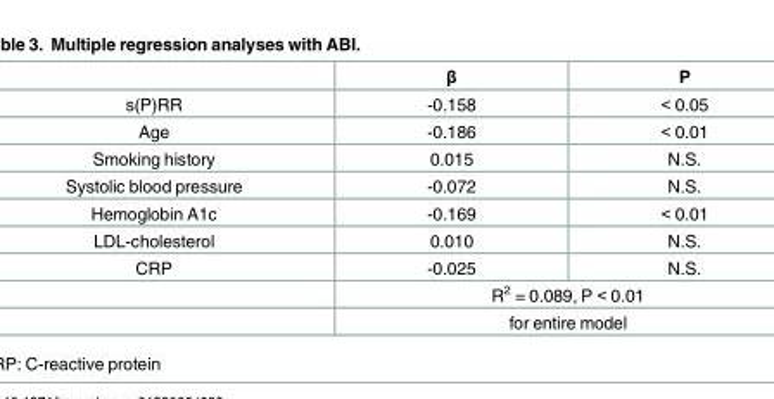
<table><thead><tr><td></td><td>β</td><td>P</td></tr></thead><tbody><tr><td>s(P)RR</td><td>-0.158</td><td>&lt; 0.05</td></tr><tr><td>Age</td><td>-0.186</td><td>&lt; 0.01</td></tr><tr><td>Smoking history</td><td>0.015</td><td>N.S.</td></tr><tr><td>Systolic blood pressure</td><td>-0.072</td><td>N.S.</td></tr><tr><td>Hemoglobin A1c</td><td>-0.169</td><td>&lt; 0.01</td></tr><tr><td>LDL-cholesterol</td><td>0.010</td><td>N.S.</td></tr><tr><td rowspan="3">CRP</td><td>-0.025</td><td>N.S.</td></tr><tr><td colspan="2">R<sup>2</sup> = 0.089, P &lt; 0.01</td></tr><tr><td colspan="2">for entire model</td></tr></tbody></table>